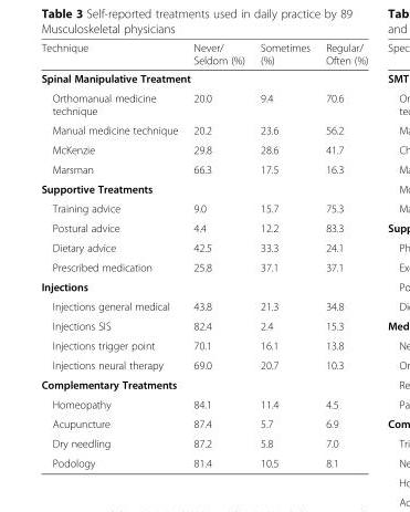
<table><thead><tr><td>Technique</td><td>Never/ Seldom (%)</td><td>Sometimes (%)</td><td>Regular/ Often (%)</td></tr></thead><tbody><tr><td colspan="4">Spinal Manipulative Treatment</td></tr><tr><td>Orthomanual medicine technique</td><td>20.0</td><td>9.4</td><td>70.6</td></tr><tr><td>Manual medicine technique</td><td>20.2</td><td>23.6</td><td>56.2</td></tr><tr><td>McKenzie</td><td>29.8</td><td>28.6</td><td>41.7</td></tr><tr><td>Marsman</td><td>66.3</td><td>17.5</td><td>16.3</td></tr><tr><td colspan="4">Supportive Treatments</td></tr><tr><td>Training advice</td><td>9.0</td><td>15.7</td><td>75.3</td></tr><tr><td>Postural advice</td><td>4.4</td><td>12.2</td><td>83.3</td></tr><tr><td>Dietary advice</td><td>42.5</td><td>33.3</td><td>24.1</td></tr><tr><td>Prescribed medication</td><td>25.8</td><td>37.1</td><td>37.1</td></tr><tr><td colspan="4">Injections</td></tr><tr><td>Injections general medical</td><td>43.8</td><td>21.3</td><td>34.8</td></tr><tr><td>Injections SIS</td><td>82.4</td><td>2.4</td><td>15.3</td></tr><tr><td>Injections trigger point</td><td>70.1</td><td>16.1</td><td>13.8</td></tr><tr><td>Injections neural therapy</td><td>69.0</td><td>20.7</td><td>10.3</td></tr><tr><td colspan="4">Complementary Treatments</td></tr><tr><td>Homeopathy</td><td>84.1</td><td>11.4</td><td>4.5</td></tr><tr><td>Acupuncture</td><td>87.4</td><td>5.7</td><td>6.9</td></tr><tr><td>Dry needling</td><td>87.2</td><td>5.8</td><td>7.0</td></tr><tr><td>Podology</td><td>81.4</td><td>10.5</td><td>8.1</td></tr></tbody></table>